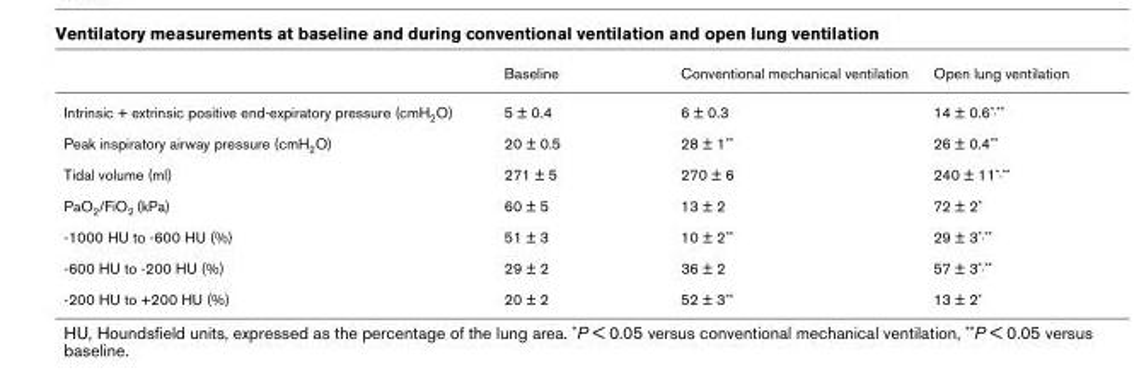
<table><thead><tr><td></td><td>Baseline</td><td>Conventional mechanical ventilation</td><td>Open lung ventilation</td></tr></thead><tbody><tr><td>Intrinsic + extrinsic positive end-expiratory pressure (cmH2O)</td><td>5 ± 0.4</td><td>6 ± 0.3</td><td>14 ± 0.6*,**</td></tr><tr><td>Peak inspiratory airway pressure (cmH2O)</td><td>20 ± 0.5</td><td>28 ± 1**</td><td>26 ± 0.4**</td></tr><tr><td>Tidal volume (ml)</td><td>271 ± 5</td><td>270 ± 6</td><td>240 ± 11*,**</td></tr><tr><td>PaO2/FiO2 (kPa)</td><td>60 ± 5</td><td>13 ± 2</td><td>72 ± 2*</td></tr><tr><td>-1000 HU to -600 HU (%)</td><td>51 ± 3</td><td>10 ± 2**</td><td>29 ± 3*,**</td></tr><tr><td>-600 HU to -200 HU (%)</td><td>29 ± 2</td><td>36 ± 2</td><td>57 ± 3*,**</td></tr><tr><td>-200 HU to +200 HU (%)</td><td>20 ± 2</td><td>52 ± 3**</td><td>13 ± 2*</td></tr></tbody></table>